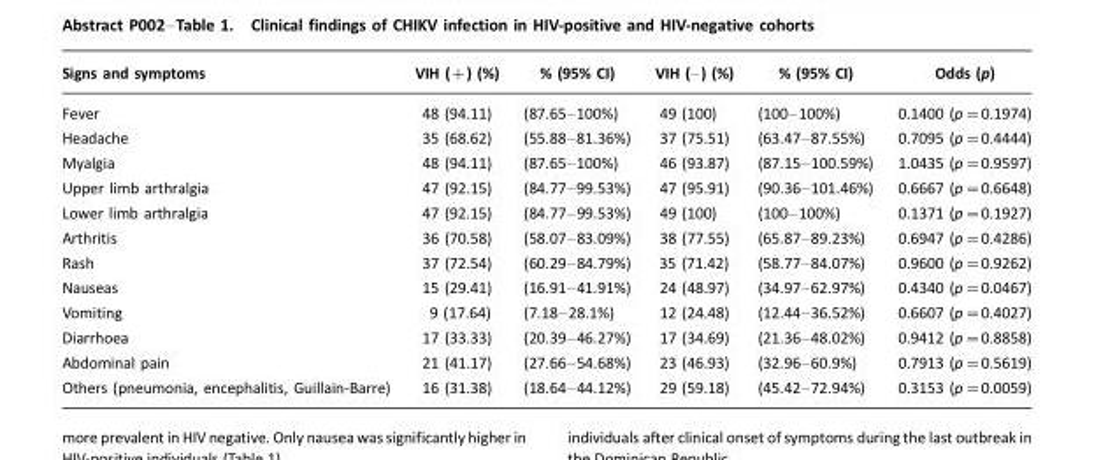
<table><thead><tr><td>Signs and symptoms</td><td>VIH (+) (%)</td><td>% (95% CI)</td><td>VIH (–) (%)</td><td>% (95% CI)</td><td>Odds (p)</td></tr></thead><tbody><tr><td>Fever</td><td>48 (94.11)</td><td>(87.65–100%)</td><td>49 (100)</td><td>(100–100%)</td><td>0.1400 (p=0.1974)</td></tr><tr><td>Headache</td><td>35 (68.62)</td><td>(55.88–81.36%)</td><td>37 (75.51)</td><td>(63.47–87.55%)</td><td>0.7095 (p=0.4444)</td></tr><tr><td>Myalgia</td><td>48 (94.11)</td><td>(87.65–100%)</td><td>46 (93.87)</td><td>(87.15–100.59%)</td><td>1.0435 (p=0.9597)</td></tr><tr><td>Upper limb arthralgia</td><td>47 (92.15)</td><td>(84.77–99.53%)</td><td>47 (95.91)</td><td>(90.36–101.46%)</td><td>0.6667 (p=0.6648)</td></tr><tr><td>Lower limb arthralgia</td><td>47 (92.15)</td><td>(84.77–99.53%)</td><td>49 (100)</td><td>(100–100%)</td><td>0.1371 (p=0.1927)</td></tr><tr><td>Arthritis</td><td>36 (70.58)</td><td>(58.07–83.09%)</td><td>38 (77.55)</td><td>(65.87–89.23%)</td><td>0.6947 (p=0.4286)</td></tr><tr><td>Rash</td><td>37 (72.54)</td><td>(60.29–84.79%)</td><td>35 (71.42)</td><td>(58.77–84.07%)</td><td>0.9600 (p=0.9262)</td></tr><tr><td>Nauseas</td><td>15 (29.41)</td><td>(16.91–41.91%)</td><td>24 (48.97)</td><td>(34.97–62.97%)</td><td>0.4340 (p=0.0467)</td></tr><tr><td>Vomiting</td><td>9 (17.64)</td><td>(7.18–28.1%)</td><td>12 (24.48)</td><td>(12.44–36.52%)</td><td>0.6607 (p=0.4027)</td></tr><tr><td>Diarrhoea</td><td>17 (33.33)</td><td>(20.39–46.27%)</td><td>17 (34.69)</td><td>(21.36–48.02%)</td><td>0.9412 (p=0.8858)</td></tr><tr><td>Abdominal pain</td><td>21 (41.17)</td><td>(27.66–54.68%)</td><td>23 (46.93)</td><td>(32.96–60.9%)</td><td>0.7913 (p=0.5619)</td></tr><tr><td>Others (pneumonia, encephalitis, Guillain-Barre)</td><td>16 (31.38)</td><td>(18.64–44.12%)</td><td>29 (59.18)</td><td>(45.42–72.94%)</td><td>0.3153 (p=0.0059)</td></tr></tbody></table>